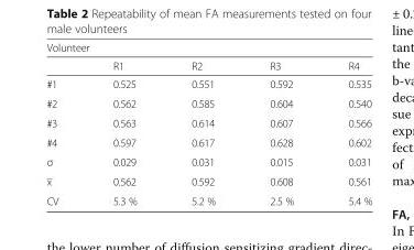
<table><thead><tr><td colspan="5">Volunteer</td></tr><tr><td></td><td>R1</td><td>R2</td><td>R3</td><td>R4</td></tr></thead><tbody><tr><td>#1</td><td>0.525</td><td>0.551</td><td>0.592</td><td>0.535</td></tr><tr><td>#2</td><td>0.562</td><td>0.585</td><td>0.604</td><td>0.540</td></tr><tr><td>#3</td><td>0.563</td><td>0.614</td><td>0.607</td><td>0.566</td></tr><tr><td>#4</td><td>0.597</td><td>0.617</td><td>0.628</td><td>0.602</td></tr><tr><td>σ</td><td>0.029</td><td>0.031</td><td>0.015</td><td>0.031</td></tr><tr><td>x̅</td><td>0.562</td><td>0.592</td><td>0.608</td><td>0.561</td></tr><tr><td>CV</td><td>5.3 %</td><td>5.2 %</td><td>2.5 %</td><td>5.4 %</td></tr></tbody></table>